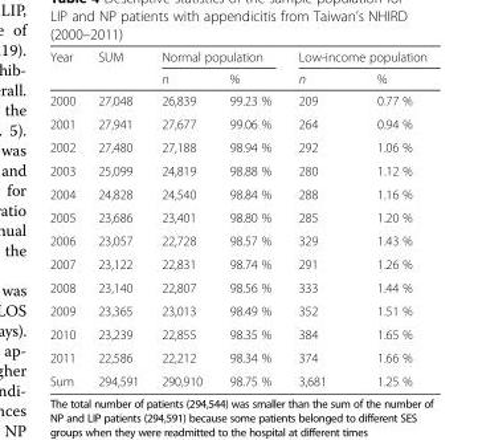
<table><thead><tr><td rowspan="2">Year</td><td rowspan="2">SUM</td><td colspan="2">Normal population</td><td colspan="2">Low-income population</td></tr><tr><td>n</td><td>%</td><td>n</td><td>%</td></tr></thead><tbody><tr><td>2000</td><td>27,048</td><td>26,839</td><td>99.23 %</td><td>209</td><td>0.77 %</td></tr><tr><td>2001</td><td>27,941</td><td>27,677</td><td>99.06 %</td><td>264</td><td>0.94 %</td></tr><tr><td>2002</td><td>27,480</td><td>27,188</td><td>98.94 %</td><td>292</td><td>1.06 %</td></tr><tr><td>2003</td><td>25,099</td><td>24,819</td><td>98.88 %</td><td>280</td><td>1.12 %</td></tr><tr><td>2004</td><td>24,828</td><td>24,540</td><td>98.84 %</td><td>288</td><td>1.16 %</td></tr><tr><td>2005</td><td>23,686</td><td>23,401</td><td>98.80 %</td><td>285</td><td>1.20 %</td></tr><tr><td>2006</td><td>23,057</td><td>22,728</td><td>98.57 %</td><td>329</td><td>1.43 %</td></tr><tr><td>2007</td><td>23,122</td><td>22,831</td><td>98.74 %</td><td>291</td><td>1.26 %</td></tr><tr><td>2008</td><td>23,140</td><td>22,807</td><td>98.56 %</td><td>333</td><td>1.44 %</td></tr><tr><td>2009</td><td>23,365</td><td>23,013</td><td>98.49 %</td><td>352</td><td>1.51 %</td></tr><tr><td>2010</td><td>23,239</td><td>22,855</td><td>98.35 %</td><td>384</td><td>1.65 %</td></tr><tr><td>2011</td><td>22,586</td><td>22,212</td><td>98.34 %</td><td>374</td><td>1.66 %</td></tr><tr><td>Sum</td><td>294,591</td><td>290,910</td><td>98.75 %</td><td>3,681</td><td>1.25 %</td></tr></tbody></table>